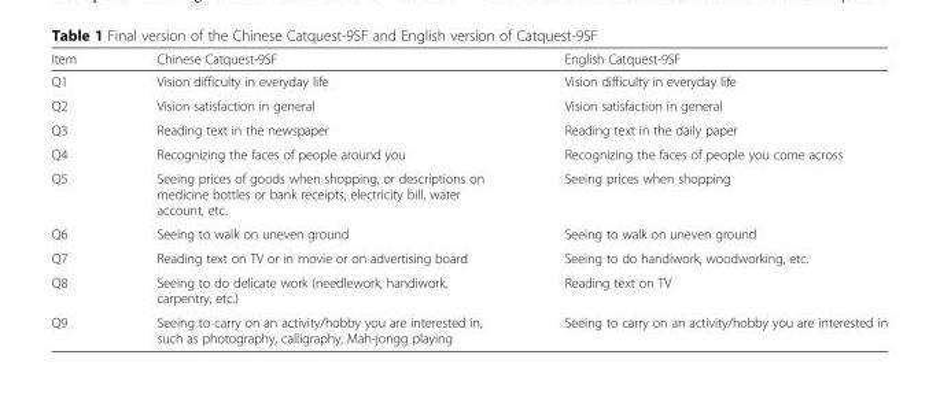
<table><thead><tr><td>Item</td><td>Chinese Catquest-9SF</td><td>English Catquest-9SF</td></tr></thead><tbody><tr><td>Q1</td><td>Vision difficulty in everyday life</td><td>Vision difficulty in everyday life</td></tr><tr><td>Q2</td><td>Vision satisfaction in general</td><td>Vision satisfaction in general</td></tr><tr><td>Q3</td><td>Reading text in the newspaper</td><td>Reading text in the daily paper</td></tr><tr><td>Q4</td><td>Recognizing the faces of people around you</td><td>Recognizing the faces of people you come across</td></tr><tr><td>Q5</td><td>Seeing prices of goods when shopping, or descriptions on medicine bottles or bank receipts, electricity bill, water account, etc.</td><td>Seeing prices when shopping</td></tr><tr><td>Q6</td><td>Seeing to walk on uneven ground</td><td>Seeing to walk on uneven ground</td></tr><tr><td>Q7</td><td>Reading text on TV or in movie or on advertising board</td><td>Seeing to do handiwork, woodworking, etc.</td></tr><tr><td>Q8</td><td>Seeing to do delicate work (needlework, handiwork, carpentry, etc.)</td><td>Reading text on TV</td></tr><tr><td>Q9</td><td>Seeing to carry on an activity/hobby you are interested in, such as photography, calligraphy, Mah-jongg playing</td><td>Seeing to carry on an activity/hobby you are interested in</td></tr></tbody></table>